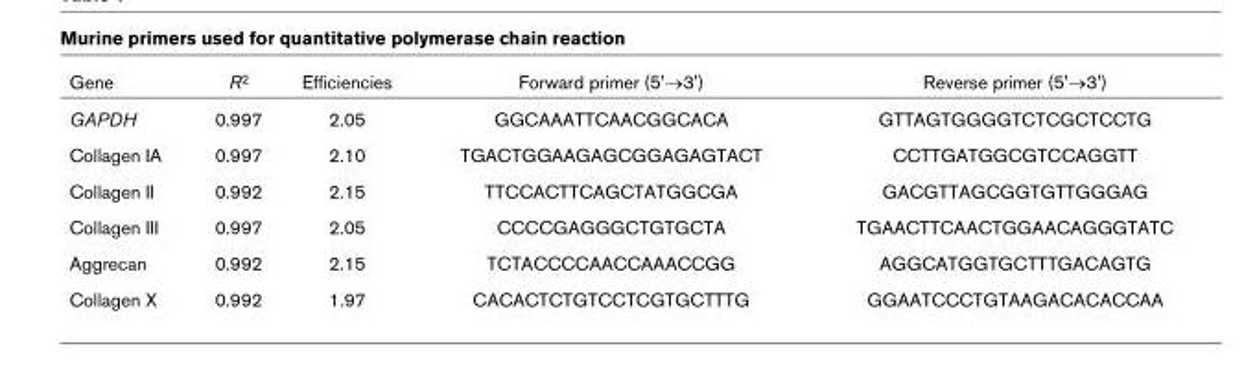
<table><thead><tr><td>Gene</td><td>R<sup>2</sup></td><td>Efficiencies</td><td>Forward primer (5&#x27;→3&#x27;)</td><td>Reverse primer (5&#x27;→3&#x27;)</td></tr></thead><tbody><tr><td>GAPDH</td><td>0.997</td><td>2.05</td><td>GGCAAATTCAACGGCACA</td><td>GTTAGTGGGGTCTCGCTCCTG</td></tr><tr><td>Collagen IA</td><td>0.997</td><td>2.10</td><td>TGACTGGAAGAGCGGAGAGTACT</td><td>CCTTGATGGCGTCCAGGTT</td></tr><tr><td>Collagen II</td><td>0.992</td><td>2.15</td><td>TTCCACTTCAGCTATGGCGA</td><td>GACGTTAGCGGTGTTGGGAG</td></tr><tr><td>Collagen III</td><td>0.997</td><td>2.05</td><td>CCCCGAGGGCTGTGCTA</td><td>TGAACTTCAACTGGAACAGGGTATC</td></tr><tr><td>Aggrecan</td><td>0.992</td><td>2.15</td><td>TCTACCCCAACCAAACCGG</td><td>AGGCATGGTGCTTTGACAGTG</td></tr><tr><td>Collagen X</td><td>0.992</td><td>1.97</td><td>CACACTCTGTCCTCGTGCTTTG</td><td>GGAATCCCTGTAAGACACACCAA</td></tr></tbody></table>